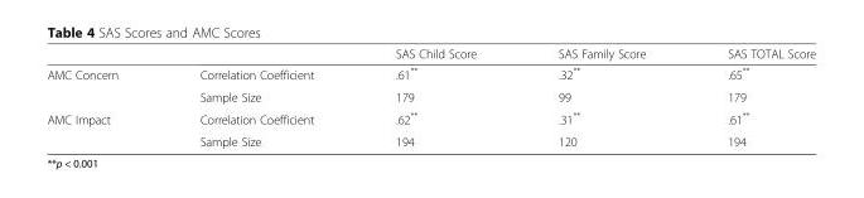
<table><thead><tr><td></td><td></td><td>SAS Child Score</td><td>SAS Family Score</td><td>SAS TOTAL Score</td></tr></thead><tbody><tr><td rowspan="2">AMC Concern</td><td>Correlation Coefficient</td><td>.61**</td><td>.32**</td><td>.65**</td></tr><tr><td>Sample Size</td><td>179</td><td>99</td><td>179</td></tr><tr><td rowspan="2">AMC Impact</td><td>Correlation Coefficient</td><td>.62**</td><td>.31**</td><td>.61**</td></tr><tr><td>Sample Size</td><td>194</td><td>120</td><td>194</td></tr></tbody></table>